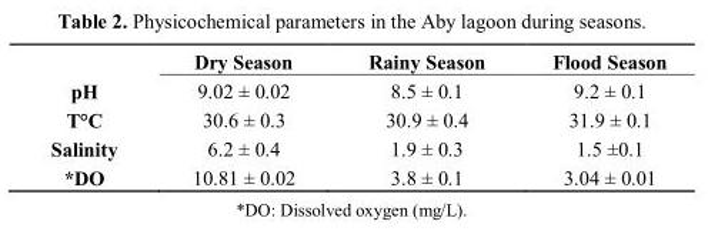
<table><thead><tr><td></td><td>Dry Season</td><td>Rainy Season</td><td>Flood Season</td></tr></thead><tbody><tr><td>pH</td><td>9.02 ± 0.02</td><td>8.5 ± 0.1</td><td>9.2 ± 0.1</td></tr><tr><td>T°C</td><td>30.6 ± 0.3</td><td>30.9 ± 0.4</td><td>31.9 ± 0.1</td></tr><tr><td>Salinity</td><td>6.2 ± 0.4</td><td>1.9 ± 0.3</td><td>1.5 ±0.1</td></tr><tr><td>*DO</td><td>10.81 ± 0.02</td><td>3.8 ± 0.1</td><td>3.04 ± 0.01</td></tr></tbody></table>